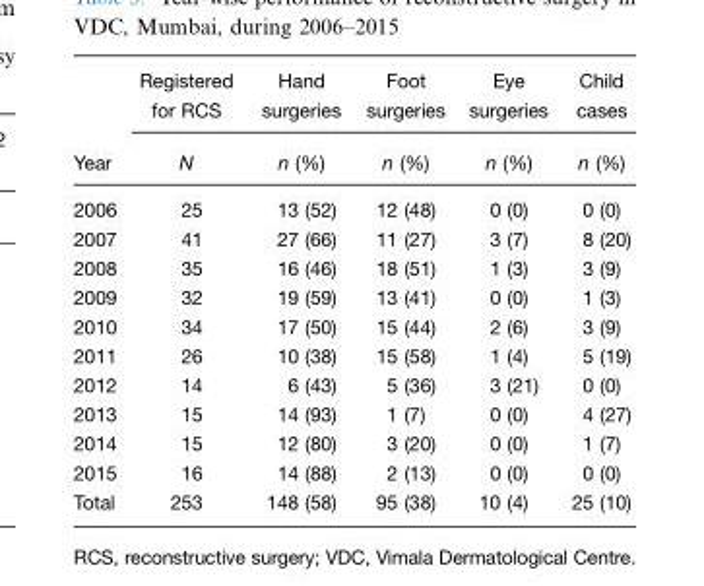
<table><thead><tr><td rowspan="2">Year</td><td rowspan="2">Registered for RCS N</td><td rowspan="2">Hand surgeries n (%)</td><td rowspan="2">Foot surgeries n (%)</td><td rowspan="2">Eye surgeries n (%)</td><td rowspan="2">Child cases n (%)</td></tr><tr></tr></thead><tbody><tr><td>2006</td><td>25</td><td>13 (52)</td><td>12 (48)</td><td>0 (0)</td><td>0 (0)</td></tr><tr><td>2007</td><td>41</td><td>27 (66)</td><td>11 (27)</td><td>3 (7)</td><td>8 (20)</td></tr><tr><td>2008</td><td>35</td><td>16 (46)</td><td>18 (51)</td><td>1 (3)</td><td>3 (9)</td></tr><tr><td>2009</td><td>32</td><td>19 (59)</td><td>13 (41)</td><td>0 (0)</td><td>1 (3)</td></tr><tr><td>2010</td><td>34</td><td>17 (50)</td><td>15 (44)</td><td>2 (6)</td><td>3 (9)</td></tr><tr><td>2011</td><td>26</td><td>10 (38)</td><td>15 (58)</td><td>1 (4)</td><td>5 (19)</td></tr><tr><td>2012</td><td>14</td><td>6 (43)</td><td>5 (36)</td><td>3 (21)</td><td>0 (0)</td></tr><tr><td>2013</td><td>15</td><td>14 (93)</td><td>1 (7)</td><td>0 (0)</td><td>4 (27)</td></tr><tr><td>2014</td><td>15</td><td>12 (80)</td><td>3 (20)</td><td>0 (0)</td><td>1 (7)</td></tr><tr><td>2015</td><td>16</td><td>14 (88)</td><td>2 (13)</td><td>0 (0)</td><td>0 (0)</td></tr><tr><td>Total</td><td>253</td><td>148 (58)</td><td>95 (38)</td><td>10 (4)</td><td>25 (10)</td></tr></tbody></table>